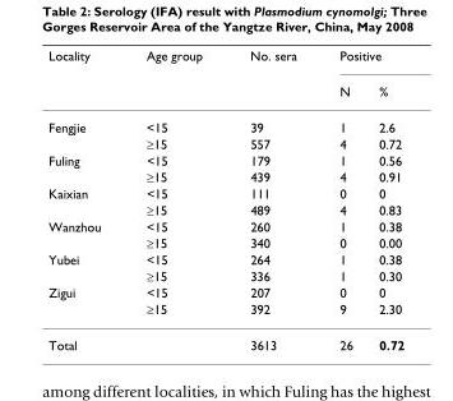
<table><thead><tr><td rowspan="2">Locality</td><td rowspan="2">Age group</td><td rowspan="2">No. sera</td><td colspan="2">Positive</td></tr><tr><td>N</td><td>%</td></tr></thead><tbody><tr><td rowspan="2">Fengjie</td><td>&lt;15</td><td>39</td><td>1</td><td>2.6</td></tr><tr><td>≥15</td><td>557</td><td>4</td><td>0.72</td></tr><tr><td rowspan="2">Fuling</td><td>&lt;15</td><td>179</td><td>1</td><td>0.56</td></tr><tr><td>≥15</td><td>439</td><td>4</td><td>0.91</td></tr><tr><td rowspan="2">Kaixian</td><td>&lt;15</td><td>111</td><td>0</td><td>0</td></tr><tr><td>≥15</td><td>489</td><td>4</td><td>0.83</td></tr><tr><td rowspan="2">Wanzhou</td><td>&lt;15</td><td>260</td><td>1</td><td>0.38</td></tr><tr><td>≥15</td><td>340</td><td>0</td><td>0.00</td></tr><tr><td rowspan="2">Yubei</td><td>&lt;15</td><td>264</td><td>1</td><td>0.38</td></tr><tr><td>≥15</td><td>336</td><td>1</td><td>0.30</td></tr><tr><td rowspan="2">Zigui</td><td>&lt;15</td><td>207</td><td>0</td><td>0</td></tr><tr><td>≥15</td><td>392</td><td>9</td><td>2.30</td></tr><tr><td>Total</td><td></td><td>3613</td><td>26</td><td>0.72</td></tr></tbody></table>